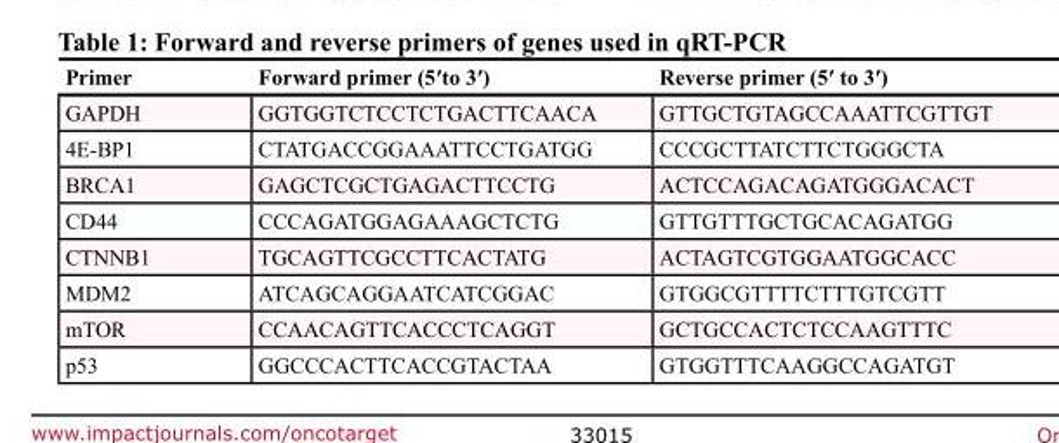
<table><thead><tr><td>Primer</td><td>Forward primer (5′to 3′)</td><td>Reverse primer (5′ to 3′)</td></tr></thead><tbody><tr><td>GAPDH</td><td>GGTGGTCTCCTCTGACTTCAACA</td><td>GTTGCTGTAGCCAAATTCGTTGT</td></tr><tr><td>4E-BP1</td><td>CTATGACCGGAAATTCCTGATGG</td><td>CCCGCTTATCTTCTGGGCTA</td></tr><tr><td>BRCA1</td><td>GAGCTCGCTGAGACTTCCTG</td><td>ACTCCAGACAGATGGGACACT</td></tr><tr><td>CD44</td><td>CCCAGATGGAGAAAGCTCTG</td><td>GTTGTTTGCTGCACAGATGG</td></tr><tr><td>CTNNB1</td><td>TGCAGTTCGCCTTCACTATG</td><td>ACTAGTCGTGGAATGGCACC</td></tr><tr><td>MDM2</td><td>ATCAGCAGGAATCATCGGAC</td><td>GTGGCGTTTTCTTTGTCGTT</td></tr><tr><td>mTOR</td><td>CCAACAGTTCACCCTCAGGT</td><td>GCTGCCACTCTCCAAGTTTC</td></tr><tr><td>p53</td><td>GGCCCACTTCACCGTACTAA</td><td>GTGGTTTCAAGGCCAGATGT</td></tr></tbody></table>